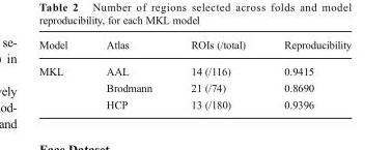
<table><thead><tr><td>Model</td><td>Atlas</td><td>ROIs (/total)</td><td>Reproducibility</td></tr></thead><tbody><tr><td rowspan="3">MKL</td><td>AAL</td><td>14 (/116)</td><td>0.9415</td></tr><tr><td>Brodmann</td><td>21 (/74)</td><td>0.8690</td></tr><tr><td>HCP</td><td>13 (/180)</td><td>0.9396</td></tr></tbody></table>